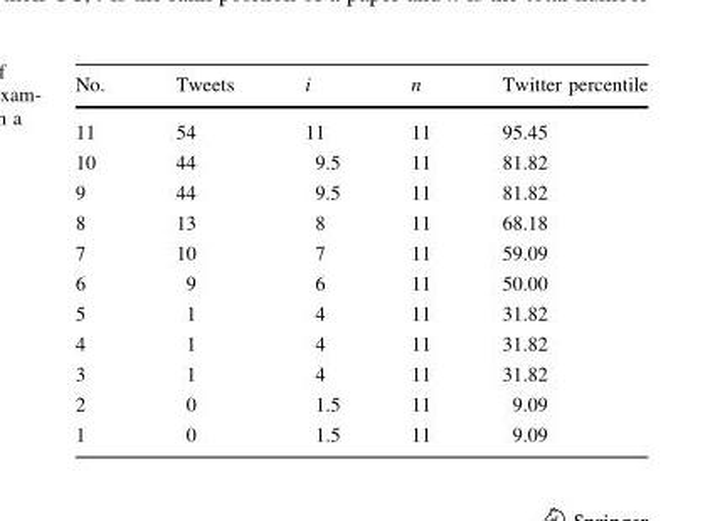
<table><thead><tr><td>No.</td><td>Tweets</td><td>i</td><td>n</td><td>Twitter percentile</td></tr></thead><tbody><tr><td>11</td><td>54</td><td>11</td><td>11</td><td>95.45</td></tr><tr><td>10</td><td>44</td><td>9.5</td><td>11</td><td>81.82</td></tr><tr><td>9</td><td>44</td><td>9.5</td><td>11</td><td>81.82</td></tr><tr><td>8</td><td>13</td><td>8</td><td>11</td><td>68.18</td></tr><tr><td>7</td><td>10</td><td>7</td><td>11</td><td>59.09</td></tr><tr><td>6</td><td>9</td><td>6</td><td>11</td><td>50.00</td></tr><tr><td>5</td><td>1</td><td>4</td><td>11</td><td>31.82</td></tr><tr><td>4</td><td>1</td><td>4</td><td>11</td><td>31.82</td></tr><tr><td>3</td><td>1</td><td>4</td><td>11</td><td>31.82</td></tr><tr><td>2</td><td>0</td><td>1.5</td><td>11</td><td>9.09</td></tr><tr><td>1</td><td>0</td><td>1.5</td><td>11</td><td>9.09</td></tr></tbody></table>